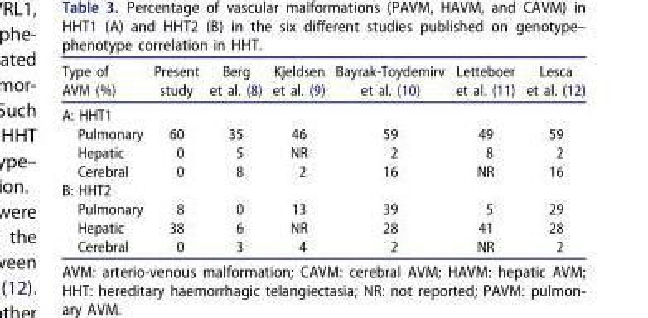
<table><thead><tr><td>Type of AVM (%)</td><td>Present study</td><td>Berg et al. (8)</td><td>Kjeldsen et al. (9)</td><td>Bayrak-Toydemirv et al. (10)</td><td>Letteboer et al. (11)</td><td>Lesca et al. (12)</td></tr></thead><tbody><tr><td colspan="7">A: HHT1</td></tr><tr><td>Pulmonary</td><td>60</td><td>35</td><td>46</td><td>59</td><td>49</td><td>59</td></tr><tr><td>Hepatic</td><td>0</td><td>5</td><td>NR</td><td>2</td><td>8</td><td>2</td></tr><tr><td>Cerebral</td><td>0</td><td>8</td><td>2</td><td>16</td><td>NR</td><td>16</td></tr><tr><td colspan="7">B: HHT2</td></tr><tr><td>Pulmonary</td><td>8</td><td>0</td><td>13</td><td>39</td><td>5</td><td>29</td></tr><tr><td>Hepatic</td><td>38</td><td>6</td><td>NR</td><td>28</td><td>41</td><td>28</td></tr><tr><td>Cerebral</td><td>0</td><td>3</td><td>4</td><td>2</td><td>NR</td><td>2</td></tr></tbody></table>